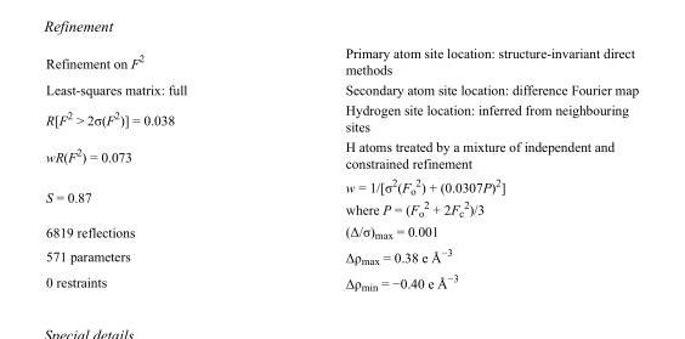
<table><tbody><tr><td>Refinement on F<sup>2</sup></td><td>Primary atom site location: structure-invariant direct methods</td></tr><tr><td>Least-squares matrix: full</td><td>Secondary atom site location: difference Fourier map</td></tr><tr><td>R[F<sup>2</sup> &gt; 2σ(F<sup>2</sup>)] = 0.038</td><td>Hydrogen site location: inferred from neighbouring sites</td></tr><tr><td>wR(F<sup>2</sup>) = 0.073</td><td>H atoms treated by a mixture of independent and constrained refinement</td></tr><tr><td>S = 0.87</td><td>w = 1/[σ<sup>2</sup>(F<sub>o</sub> <sup>2</sup>) + (0.0307P)<sup>2</sup>] where P = (F<sub>o</sub> <sup>2</sup> + 2F<sub>c</sub> <sup>2</sup>)/3</td></tr><tr><td>6819 reflections</td><td>(Δ/σ)<sub>max</sub> = 0.001</td></tr><tr><td>571 parameters</td><td>Δρ<sub>max</sub> = 0.38 e Å<sup>−3</sup></td></tr><tr><td>0 restraints</td><td>Δρ<sub>min</sub> = −0.40 e Å<sup>−3</sup></td></tr></tbody></table>